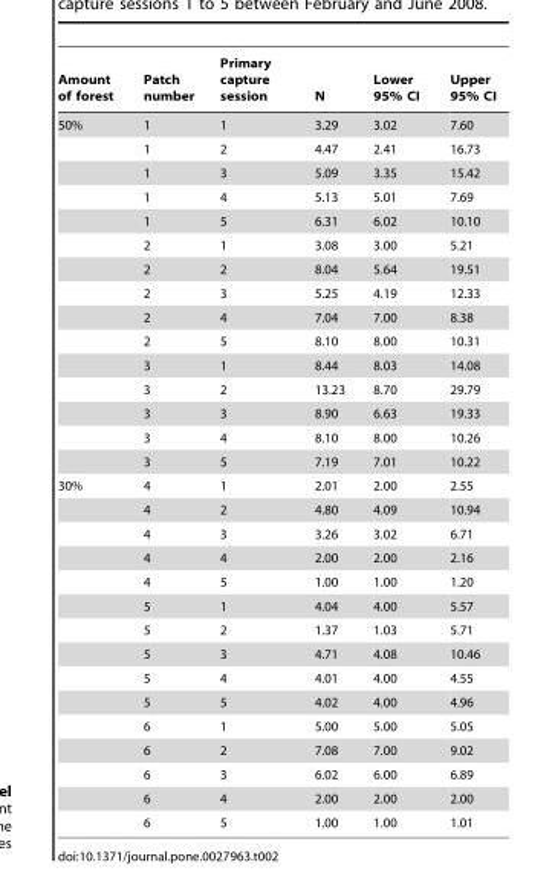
<table><thead><tr><td>Amount of forest</td><td>Patch number</td><td>Primary capture session</td><td>N</td><td>Lower 95% CI</td><td>Upper 95% CI</td></tr></thead><tbody><tr><td rowspan="15">50%</td><td>1</td><td>1</td><td>3.29</td><td>3.02</td><td>7.60</td></tr><tr><td>1</td><td>2</td><td>4.47</td><td>2.41</td><td>16.73</td></tr><tr><td>1</td><td>3</td><td>5.09</td><td>3.35</td><td>15.42</td></tr><tr><td>1</td><td>4</td><td>5.13</td><td>5.01</td><td>7.69</td></tr><tr><td>1</td><td>5</td><td>6.31</td><td>6.02</td><td>10.10</td></tr><tr><td>2</td><td>1</td><td>3.08</td><td>3.00</td><td>5.21</td></tr><tr><td>2</td><td>2</td><td>8.04</td><td>5.64</td><td>19.51</td></tr><tr><td>2</td><td>3</td><td>5.25</td><td>4.19</td><td>12.33</td></tr><tr><td>2</td><td>4</td><td>7.04</td><td>7.00</td><td>8.38</td></tr><tr><td>2</td><td>5</td><td>8.10</td><td>8.00</td><td>10.31</td></tr><tr><td>3</td><td>1</td><td>8.44</td><td>8.03</td><td>14.08</td></tr><tr><td>3</td><td>2</td><td>13.23</td><td>8.70</td><td>29.79</td></tr><tr><td>3</td><td>3</td><td>8.90</td><td>6.63</td><td>19.33</td></tr><tr><td>3</td><td>4</td><td>8.10</td><td>8.00</td><td>10.26</td></tr><tr><td>3</td><td>5</td><td>7.19</td><td>7.01</td><td>10.22</td></tr><tr><td rowspan="15">30%</td><td>4</td><td>1</td><td>2.01</td><td>2.00</td><td>2.55</td></tr><tr><td>4</td><td>2</td><td>4.80</td><td>4.09</td><td>10.94</td></tr><tr><td>4</td><td>3</td><td>3.26</td><td>3.02</td><td>6.71</td></tr><tr><td>4</td><td>4</td><td>2.00</td><td>2.00</td><td>2.16</td></tr><tr><td>4</td><td>5</td><td>1.00</td><td>1.00</td><td>1.20</td></tr><tr><td>5</td><td>1</td><td>4.04</td><td>4.00</td><td>5.57</td></tr><tr><td>5</td><td>2</td><td>1.37</td><td>1.03</td><td>5.71</td></tr><tr><td>5</td><td>3</td><td>4.71</td><td>4.08</td><td>10.46</td></tr><tr><td>5</td><td>4</td><td>4.01</td><td>4.00</td><td>4.55</td></tr><tr><td>5</td><td>5</td><td>4.02</td><td>4.00</td><td>4.96</td></tr><tr><td>6</td><td>1</td><td>5.00</td><td>5.00</td><td>5.05</td></tr><tr><td>6</td><td>2</td><td>7.08</td><td>7.00</td><td>9.02</td></tr><tr><td>6</td><td>3</td><td>6.02</td><td>6.00</td><td>6.89</td></tr><tr><td>6</td><td>4</td><td>2.00</td><td>2.00</td><td>2.00</td></tr><tr><td>6</td><td>5</td><td>1.00</td><td>1.00</td><td>1.01</td></tr></tbody></table>